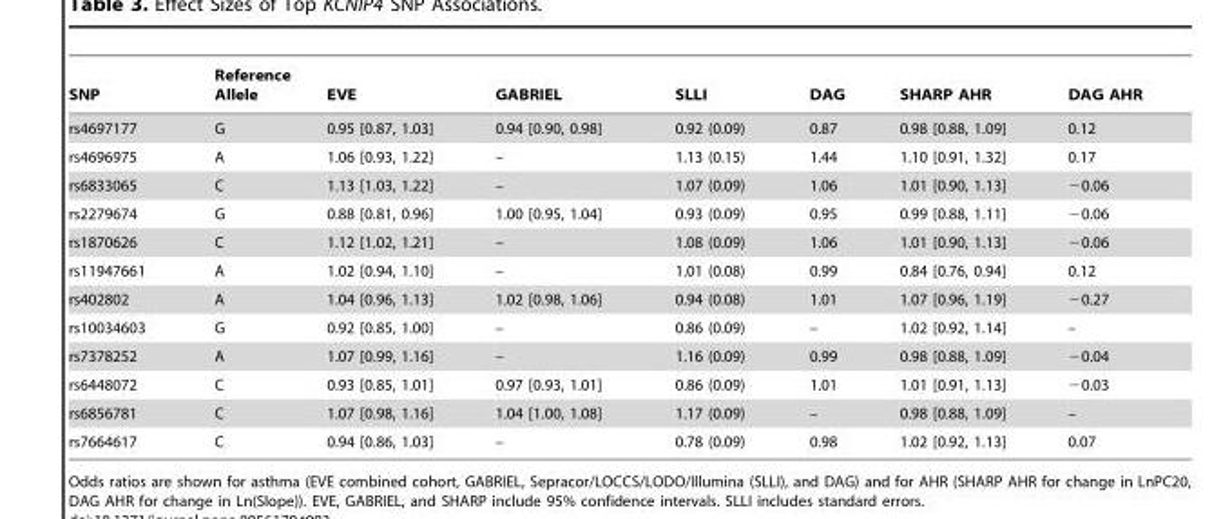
<table><thead><tr><td>SNP</td><td>Reference Allele</td><td>EVE</td><td>GABRIEL</td><td>SLLI</td><td>DAG</td><td>SHARP AHR</td><td>DAG AHR</td></tr></thead><tbody><tr><td>rs4697177</td><td>G</td><td>0.95 [0.87, 1.03]</td><td>0.94 [0.90, 0.98]</td><td>0.92 (0.09)</td><td>0.87</td><td>0.98 [0.88, 1.09]</td><td>0.12</td></tr><tr><td>rs4696975</td><td>A</td><td>1.06 [0.93, 1.22]</td><td>–</td><td>1.13 (0.15)</td><td>1.44</td><td>1.10 [0.91, 1.32]</td><td>0.17</td></tr><tr><td>rs6833065</td><td>C</td><td>1.13 [1.03, 1.22]</td><td>–</td><td>1.07 (0.09)</td><td>1.06</td><td>1.01 [0.90, 1.13]</td><td>−0.06</td></tr><tr><td>rs2279674</td><td>G</td><td>0.88 [0.81, 0.96]</td><td>1.00 [0.95, 1.04]</td><td>0.93 (0.09)</td><td>0.95</td><td>0.99 [0.88, 1.11]</td><td>−0.06</td></tr><tr><td>rs1870626</td><td>C</td><td>1.12 [1.02, 1.21]</td><td>–</td><td>1.08 (0.09)</td><td>1.06</td><td>1.01 [0.90, 1.13]</td><td>−0.06</td></tr><tr><td>rs11947661</td><td>A</td><td>1.02 [0.94, 1.10]</td><td>–</td><td>1.01 (0.08)</td><td>0.99</td><td>0.84 [0.76, 0.94]</td><td>0.12</td></tr><tr><td>rs402802</td><td>A</td><td>1.04 [0.96, 1.13]</td><td>1.02 [0.98, 1.06]</td><td>0.94 (0.08)</td><td>1.01</td><td>1.07 [0.96, 1.19]</td><td>−0.27</td></tr><tr><td>rs10034603</td><td>G</td><td>0.92 [0.85, 1.00]</td><td>–</td><td>0.86 (0.09)</td><td>–</td><td>1.02 [0.92, 1.14]</td><td>–</td></tr><tr><td>rs7378252</td><td>A</td><td>1.07 [0.99, 1.16]</td><td>–</td><td>1.16 (0.09)</td><td>0.99</td><td>0.98 [0.88, 1.09]</td><td>−0.04</td></tr><tr><td>rs6448072</td><td>C</td><td>0.93 [0.85, 1.01]</td><td>0.97 [0.93, 1.01]</td><td>0.86 (0.09)</td><td>1.01</td><td>1.01 [0.91, 1.13]</td><td>−0.03</td></tr><tr><td>rs6856781</td><td>C</td><td>1.07 [0.98, 1.16]</td><td>1.04 [1.00, 1.08]</td><td>1.17 (0.09)</td><td>–</td><td>0.98 [0.88, 1.09]</td><td>–</td></tr><tr><td>rs7664617</td><td>C</td><td>0.94 [0.86, 1.03]</td><td>–</td><td>0.78 (0.09)</td><td>0.98</td><td>1.02 [0.92, 1.13]</td><td>0.07</td></tr></tbody></table>